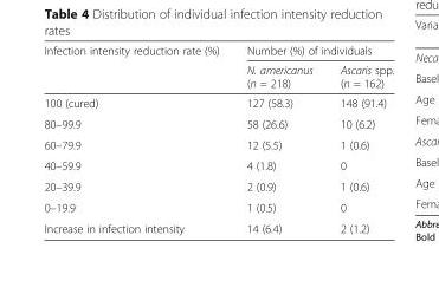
<table><thead><tr><td rowspan="2">Infection intensity reduction rate (%)</td><td colspan="2">Number (%) of individuals</td></tr><tr><td>N. americanus (n = 218)</td><td>Ascaris spp. (n = 162)</td></tr></thead><tbody><tr><td>100 (cured)</td><td>127 (58.3)</td><td>148 (91.4)</td></tr><tr><td>80–99.9</td><td>58 (26.6)</td><td>10 (6.2)</td></tr><tr><td>60–79.9</td><td>12 (5.5)</td><td>1 (0.6)</td></tr><tr><td>40–59.9</td><td>4 (1.8)</td><td>0</td></tr><tr><td>20–39.9</td><td>2 (0.9)</td><td>1 (0.6)</td></tr><tr><td>0–19.9</td><td>1 (0.5)</td><td>0</td></tr><tr><td>Increase in infection intensity</td><td>14 (6.4)</td><td>2 (1.2)</td></tr></tbody></table>